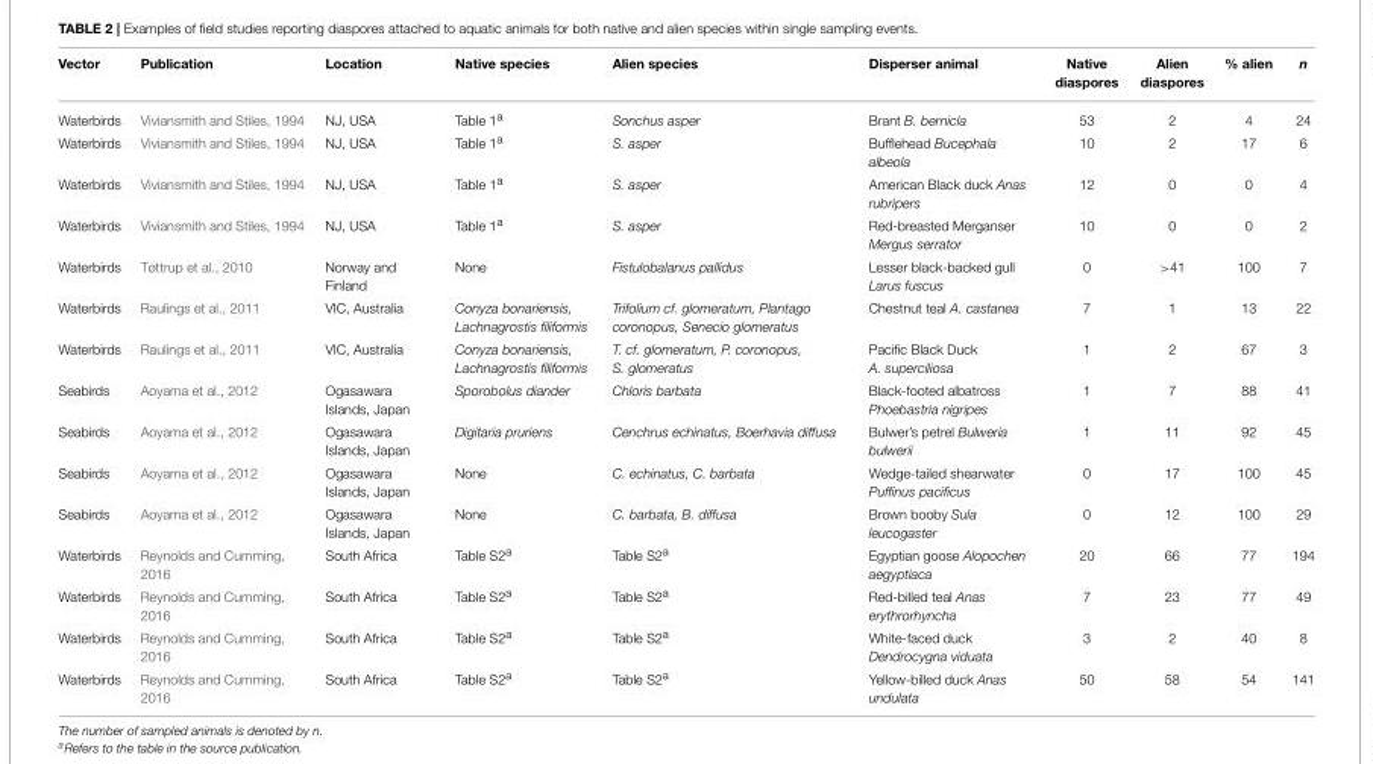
<table><thead><tr><td>Vector</td><td>Publication</td><td>Location</td><td>Native species</td><td>Alien species</td><td>Disperser animal</td><td>Native diaspores</td><td>Alien diaspores</td><td>% alien</td><td>n</td></tr></thead><tbody><tr><td>Waterbirds</td><td>Viviansmith and Stiles, 1994</td><td>NJ, USA</td><td>Table 1<sup>a</sup></td><td>Sonchus asper</td><td>Brant B. bernicla</td><td>53</td><td>2</td><td>4</td><td>24</td></tr><tr><td>Waterbirds</td><td>Viviansmith and Stiles, 1994</td><td>NJ, USA</td><td>Table 1<sup>a</sup></td><td>S. asper</td><td>Bufflehead Bucephala albeola</td><td>10</td><td>2</td><td>17</td><td>6</td></tr><tr><td>Waterbirds</td><td>Viviansmith and Stiles, 1994</td><td>NJ, USA</td><td>Table 1<sup>a</sup></td><td>S. asper</td><td>American Black duck Anas rubripers</td><td>12</td><td>0</td><td>0</td><td>4</td></tr><tr><td>Waterbirds</td><td>Viviansmith and Stiles, 1994</td><td>NJ, USA</td><td>Table 1<sup>a</sup></td><td>S. asper</td><td>Red-breasted Merganser Mergus serrator</td><td>10</td><td>0</td><td>0</td><td>2</td></tr><tr><td>Waterbirds</td><td>Tøttrup et al., 2010</td><td>Norway and Finland</td><td>None</td><td>Fistulobalanus pallidus</td><td>Lesser black-backed gull Larus fuscus</td><td>0</td><td>&gt;41</td><td>100</td><td>7</td></tr><tr><td>Waterbirds</td><td>Raulings et al., 2011</td><td>VIC, Australia</td><td>Conyza bonariensis, Lachnagrostis filiformis</td><td>Trifolium cf. glomeratum, Plantago coronopus, Senecio glomeratus</td><td>Chestnut teal A. castanea</td><td>7</td><td>1</td><td>13</td><td>22</td></tr><tr><td>Waterbirds</td><td>Raulings et al., 2011</td><td>VIC, Australia</td><td>Conyza bonariensis, Lachnagrostis filiformis</td><td>T. cf. glomeratum, P. coronopus, S. glomeratus</td><td>Pacific Black Duck A. superciliosa</td><td>1</td><td>2</td><td>67</td><td>3</td></tr><tr><td>Seabirds</td><td>Aoyama et al., 2012</td><td>Ogasawara Islands, Japan</td><td>Sporobolus diander</td><td>Chloris barbata</td><td>Black-footed albatross Phoebastria nigripes</td><td>1</td><td>7</td><td>88</td><td>41</td></tr><tr><td>Seabirds</td><td>Aoyama et al., 2012</td><td>Ogasawara Islands, Japan</td><td>Digitaria pruriens</td><td>Cenchrus echinatus, Boerhavia diffusa</td><td>Bulwer’s petrel Bulweria bulwerii</td><td>1</td><td>11</td><td>92</td><td>45</td></tr><tr><td>Seabirds</td><td>Aoyama et al., 2012</td><td>Ogasawara Islands, Japan</td><td>None</td><td>C. echinatus, C. barbata</td><td>Wedge-tailed shearwater Puffinus pacificus</td><td>0</td><td>17</td><td>100</td><td>45</td></tr><tr><td>Seabirds</td><td>Aoyama et al., 2012</td><td>Ogasawara Islands, Japan</td><td>None</td><td>C. barbata, B. diffusa</td><td>Brown booby Sula leucogaster</td><td>0</td><td>12</td><td>100</td><td>29</td></tr><tr><td>Waterbirds</td><td>Reynolds and Cumming, 2016</td><td>South Africa</td><td>Table S2<sup>a</sup></td><td>Table S2<sup>a</sup></td><td>Egyptian goose Alopochen aegyptiaca</td><td>20</td><td>66</td><td>77</td><td>194</td></tr><tr><td>Waterbirds</td><td>Reynolds and Cumming, 2016</td><td>South Africa</td><td>Table S2<sup>a</sup></td><td>Table S2<sup>a</sup></td><td>Red-billed teal Anas erythrorhyncha</td><td>7</td><td>23</td><td>77</td><td>49</td></tr><tr><td>Waterbirds</td><td>Reynolds and Cumming, 2016</td><td>South Africa</td><td>Table S2<sup>a</sup></td><td>Table S2<sup>a</sup></td><td>White-faced duck Dendrocygna viduata</td><td>3</td><td>2</td><td>40</td><td>8</td></tr><tr><td>Waterbirds</td><td>Reynolds and Cumming, 2016</td><td>South Africa</td><td>Table S2<sup>a</sup></td><td>Table S2<sup>a</sup></td><td>Yellow-billed duck Anas undulata</td><td>50</td><td>58</td><td>54</td><td>141</td></tr></tbody></table>